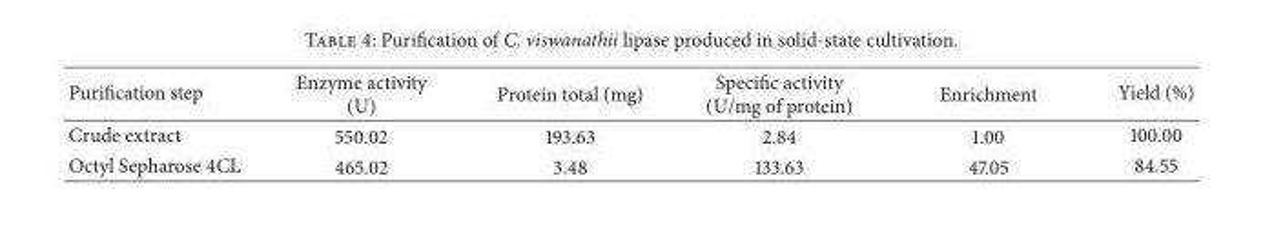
<table><thead><tr><td>Purification step</td><td>Enzyme activity (U)</td><td>Protein total (mg)</td><td>Specific activity (U/mg of protein)</td><td>Enrichment</td><td>Yield (%)</td></tr></thead><tbody><tr><td>Crude extract</td><td>550.02</td><td>193.63</td><td>2.84</td><td>1.00</td><td>100.00</td></tr><tr><td>Octyl Sepharose 4CL</td><td>465.02</td><td>3.48</td><td>133.63</td><td>47.05</td><td>84.55</td></tr></tbody></table>